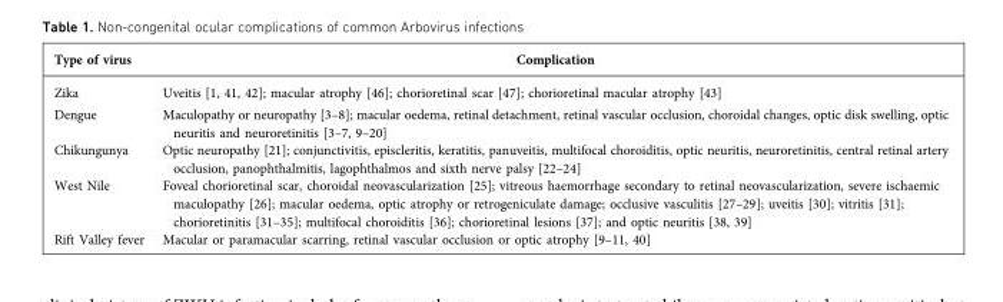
<table><thead><tr><td>Type of virus</td><td>Complication</td></tr></thead><tbody><tr><td>Zika</td><td>Uveitis [1, 41, 42]; macular atrophy [46]; chorioretinal scar [47]; chorioretinal macular atrophy [43]</td></tr><tr><td>Dengue</td><td>Maculopathy or neuropathy [3–8]; macular oedema, retinal detachment, retinal vascular occlusion, choroidal changes, optic disk swelling, optic neuritis and neuroretinitis [3–7, 9–20]</td></tr><tr><td>Chikungunya</td><td>Optic neuropathy [21]; conjunctivitis, episcleritis, keratitis, panuveitis, multifocal choroiditis, optic neuritis, neuroretinitis, central retinal artery occlusion, panophthalmitis, lagophthalmos and sixth nerve palsy [22–24]</td></tr><tr><td>West Nile</td><td>Foveal chorioretinal scar, choroidal neovascularization [25]; vitreous haemorrhage secondary to retinal neovascularization, severe ischaemic maculopathy [26]; macular oedema, optic atrophy or retrogeniculate damage; occlusive vasculitis [27–29]; uveitis [30]; vitritis [31]; chorioretinitis [31–35]; multifocal choroiditis [36]; chorioretinal lesions [37]; and optic neuritis [38, 39]</td></tr><tr><td>Rift Valley fever</td><td>Macular or paramacular scarring, retinal vascular occlusion or optic atrophy [9–11, 40]</td></tr></tbody></table>